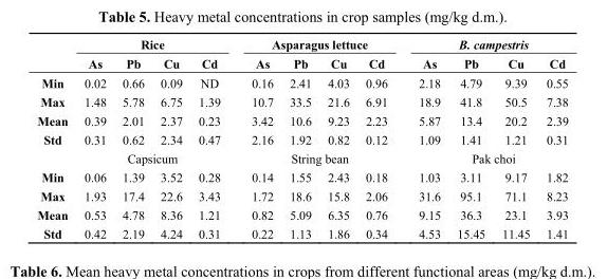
<table><thead><tr><td rowspan="2"></td><td colspan="4">Rice</td><td colspan="4">Asparagus lettuce</td><td colspan="4">B. campestris</td></tr><tr><td>As</td><td>Pb</td><td>Cu</td><td>Cd</td><td>As</td><td>Pb</td><td>Cu</td><td>Cd</td><td>As</td><td>Pb</td><td>Cu</td><td>Cd</td></tr></thead><tbody><tr><td>Min</td><td>0.02</td><td>0.66</td><td>0.09</td><td>ND</td><td>0.16</td><td>2.41</td><td>4.03</td><td>0.96</td><td>2.18</td><td>4.79</td><td>9.39</td><td>0.55</td></tr><tr><td>Max</td><td>1.48</td><td>5.78</td><td>6.75</td><td>1.39</td><td>10.7</td><td>33.5</td><td>21.6</td><td>6.91</td><td>18.9</td><td>41.8</td><td>50.5</td><td>7.38</td></tr><tr><td>Mean</td><td>0.39</td><td>2.01</td><td>2.37</td><td>0.23</td><td>3.42</td><td>10.6</td><td>9.23</td><td>2.23</td><td>5.87</td><td>13.4</td><td>20.2</td><td>2.39</td></tr><tr><td rowspan="2">Std</td><td>0.31</td><td>0.62</td><td>2.34</td><td>0.47</td><td>2.16</td><td>1.92</td><td>0.82</td><td>0.12</td><td>1.09</td><td>1.41</td><td>1.21</td><td>0.31</td></tr><tr><td colspan="4">Capsicum</td><td colspan="4">String bean</td><td colspan="4">Pak choi</td></tr><tr><td>Min</td><td>0.06</td><td>1.39</td><td>3.52</td><td>0.28</td><td>0.14</td><td>1.55</td><td>2.43</td><td>0.18</td><td>1.03</td><td>3.11</td><td>9.17</td><td>1.82</td></tr><tr><td>Max</td><td>1.93</td><td>17.4</td><td>22.6</td><td>3.43</td><td>1.72</td><td>18.6</td><td>15.8</td><td>2.06</td><td>31.6</td><td>95.1</td><td>71.1</td><td>8.23</td></tr><tr><td>Mean</td><td>0.53</td><td>4.78</td><td>8.36</td><td>1.21</td><td>0.82</td><td>5.09</td><td>6.35</td><td>0.76</td><td>9.15</td><td>36.3</td><td>23.1</td><td>3.93</td></tr><tr><td>Std</td><td>0.42</td><td>2.19</td><td>4.24</td><td>0.31</td><td>0.22</td><td>1.13</td><td>1.86</td><td>0.34</td><td>4.53</td><td>15.45</td><td>11.45</td><td>1.41</td></tr></tbody></table>